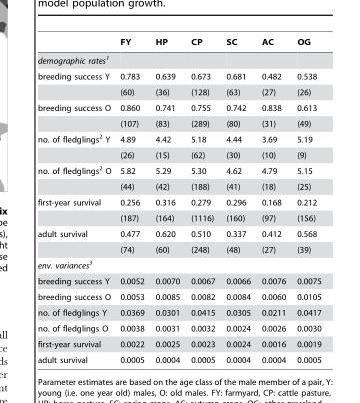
<table><thead><tr><td></td><td>FY</td><td>HP</td><td>CP</td><td>SC</td><td>AC</td><td>OG</td></tr></thead><tbody><tr><td colspan="7">demographic rates1</td></tr><tr><td rowspan="2">breeding success Y</td><td>0.783</td><td>0.639</td><td>0.673</td><td>0.681</td><td>0.482</td><td>0.538</td></tr><tr><td>(60)</td><td>(36)</td><td>(128)</td><td>(63)</td><td>(27)</td><td>(26)</td></tr><tr><td rowspan="2">breeding success O</td><td>0.860</td><td>0.741</td><td>0.755</td><td>0.742</td><td>0.838</td><td>0.613</td></tr><tr><td>(107)</td><td>(83)</td><td>(289)</td><td>(80)</td><td>(31)</td><td>(49)</td></tr><tr><td rowspan="2">no. of fledglings<sup>2</sup> Y</td><td>4.89</td><td>4.42</td><td>5.18</td><td>4.44</td><td>3.69</td><td>5.19</td></tr><tr><td>(26)</td><td>(15)</td><td>(62)</td><td>(30)</td><td>(10)</td><td>(9)</td></tr><tr><td rowspan="2">no. of fledglings<sup>2</sup> O</td><td>5.82</td><td>5.29</td><td>5.30</td><td>4.62</td><td>4.79</td><td>5.15</td></tr><tr><td>(44)</td><td>(42)</td><td>(188)</td><td>(41)</td><td>(18)</td><td>(25)</td></tr><tr><td rowspan="2">first-year survival</td><td>0.256</td><td>0.316</td><td>0.279</td><td>0.296</td><td>0.168</td><td>0.212</td></tr><tr><td>(187)</td><td>(164)</td><td>(1116)</td><td>(160)</td><td>(97)</td><td>(156)</td></tr><tr><td rowspan="2">adult survival</td><td>0.477</td><td>0.620</td><td>0.510</td><td>0.337</td><td>0.412</td><td>0.568</td></tr><tr><td>(74)</td><td>(60)</td><td>(248)</td><td>(48)</td><td>(27)</td><td>(39)</td></tr><tr><td colspan="7">env. variances3</td></tr><tr><td>breeding success Y</td><td>0.0052</td><td>0.0070</td><td>0.0067</td><td>0.0066</td><td>0.0076</td><td>0.0075</td></tr><tr><td>breeding success O</td><td>0.0053</td><td>0.0085</td><td>0.0082</td><td>0.0084</td><td>0.0060</td><td>0.0105</td></tr><tr><td>no. of fledglings Y</td><td>0.0369</td><td>0.0301</td><td>0.0415</td><td>0.0305</td><td>0.0211</td><td>0.0417</td></tr><tr><td>no. of fledglings O</td><td>0.0038</td><td>0.0031</td><td>0.0032</td><td>0.0024</td><td>0.0026</td><td>0.0030</td></tr><tr><td>first-year survival</td><td>0.0022</td><td>0.0025</td><td>0.0023</td><td>0.0024</td><td>0.0016</td><td>0.0019</td></tr><tr><td>adult survival</td><td>0.0005</td><td>0.0004</td><td>0.0005</td><td>0.0004</td><td>0.0004</td><td>0.0005</td></tr></tbody></table>